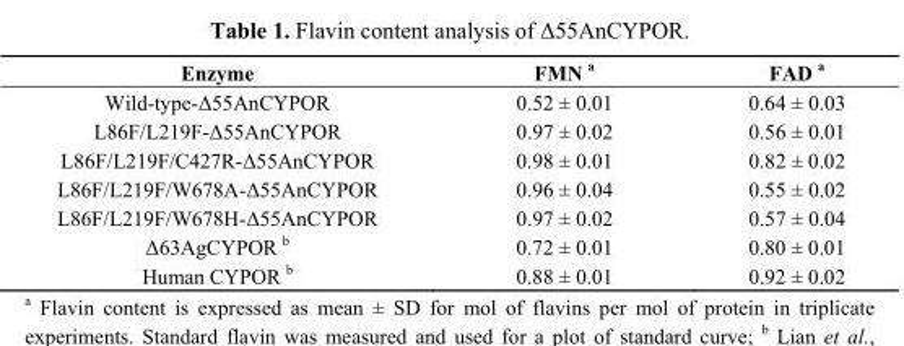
<table><thead><tr><td>Enzyme</td><td>FMN a</td><td>FAD a</td></tr></thead><tbody><tr><td>Wild-type-Δ55AnCYPOR</td><td>0.52 ± 0.01</td><td>0.64 ± 0.03</td></tr><tr><td>L86F/L219F-Δ55AnCYPOR</td><td>0.97 ± 0.02</td><td>0.56 ± 0.01</td></tr><tr><td>L86F/L219F/C427R-Δ55AnCYPOR</td><td>0.98 ± 0.01</td><td>0.82 ± 0.02</td></tr><tr><td>L86F/L219F/W678A-Δ55AnCYPOR</td><td>0.96 ± 0.04</td><td>0.55 ± 0.02</td></tr><tr><td>L86F/L219F/W678H-Δ55AnCYPOR</td><td>0.97 ± 0.02</td><td>0.57 ± 0.04</td></tr><tr><td>Δ63AgCYPOR b</td><td>0.72 ± 0.01</td><td>0.80 ± 0.01</td></tr><tr><td>Human CYPOR b</td><td>0.88 ± 0.01</td><td>0.92 ± 0.02</td></tr></tbody></table>